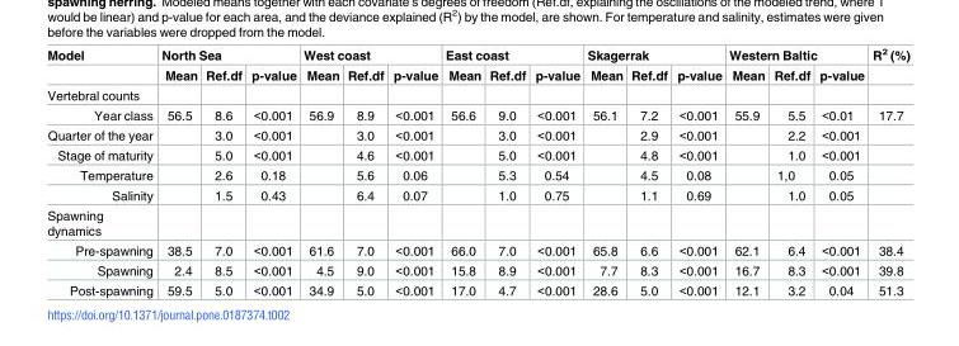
<table><thead><tr><td rowspan="2">Model</td><td colspan="3">North Sea</td><td colspan="3">West coast</td><td colspan="3">East coast</td><td colspan="3">Skagerrak</td><td colspan="3">Western Baltic</td><td rowspan="2">R<sup>2</sup> (%)</td></tr><tr><td>Mean</td><td>Ref.df</td><td>p-value</td><td>Mean</td><td>Ref.df</td><td>p-value</td><td>Mean</td><td>Ref.df</td><td>p-value</td><td>Mean</td><td>Ref.df</td><td>p-value</td><td>Mean</td><td>Ref.df</td><td>p-value</td></tr></thead><tbody><tr><td colspan="17">Vertebral counts</td></tr><tr><td>Year class</td><td>56.5</td><td>8.6</td><td>&lt;0.001</td><td>56.9</td><td>8.9</td><td>&lt;0.001</td><td>56.6</td><td>9.0</td><td>&lt;0.001</td><td>56.1</td><td>7.2</td><td>&lt;0.001</td><td>55.9</td><td>5.5</td><td>&lt;0.01</td><td>17.7</td></tr><tr><td>Quarter of the year</td><td></td><td>3.0</td><td>&lt;0.001</td><td></td><td>3.0</td><td>&lt;0.001</td><td></td><td>3.0</td><td>&lt;0.001</td><td></td><td>2.9</td><td>&lt;0.001</td><td></td><td>2.2</td><td>&lt;0.001</td><td></td></tr><tr><td>Stage of maturity</td><td></td><td>5.0</td><td>&lt;0.001</td><td></td><td>4.6</td><td>&lt;0.001</td><td></td><td>5.0</td><td>&lt;0.001</td><td></td><td>4.8</td><td>&lt;0.001</td><td></td><td>1.0</td><td>&lt;0.001</td><td></td></tr><tr><td>Temperature</td><td></td><td>2.6</td><td>0.18</td><td></td><td>5.6</td><td>0.06</td><td></td><td>5.3</td><td>0.54</td><td></td><td>4.5</td><td>0.08</td><td></td><td>1,0</td><td>0.05</td><td></td></tr><tr><td>Salinity</td><td></td><td>1.5</td><td>0.43</td><td></td><td>6.4</td><td>0.07</td><td></td><td>1.0</td><td>0.75</td><td></td><td>1.1</td><td>0.69</td><td></td><td>1.0</td><td>0.05</td><td></td></tr><tr><td colspan="17">Spawning dynamics</td></tr><tr><td>Pre-spawning</td><td>38.5</td><td>7.0</td><td>&lt;0.001</td><td>61.6</td><td>7.0</td><td>&lt;0.001</td><td>66.0</td><td>7.0</td><td>&lt;0.001</td><td>65.8</td><td>6.6</td><td>&lt;0.001</td><td>62.1</td><td>6.4</td><td>&lt;0.001</td><td>38.4</td></tr><tr><td>Spawning</td><td>2.4</td><td>8.5</td><td>&lt;0.001</td><td>4.5</td><td>9.0</td><td>&lt;0.001</td><td>15.8</td><td>8.9</td><td>&lt;0.001</td><td>7.7</td><td>8.3</td><td>&lt;0.001</td><td>16.7</td><td>8.3</td><td>&lt;0.001</td><td>39.8</td></tr><tr><td>Post-spawning</td><td>59.5</td><td>5.0</td><td>&lt;0.001</td><td>34.9</td><td>5.0</td><td>&lt;0.001</td><td>17.0</td><td>4.7</td><td>&lt;0.001</td><td>28.6</td><td>5.0</td><td>&lt;0.001</td><td>12.1</td><td>3.2</td><td>0.04</td><td>51.3</td></tr></tbody></table>